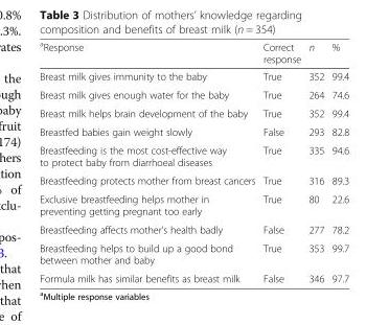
<table><thead><tr><td><sup>a</sup>Response</td><td>Correct response</td><td>n</td><td>%</td></tr></thead><tbody><tr><td>Breast milk gives immunity to the baby</td><td>True</td><td>352</td><td>99.4</td></tr><tr><td>Breast milk gives enough water for the baby</td><td>True</td><td>264</td><td>74.6</td></tr><tr><td>Breast milk helps brain development of the baby</td><td>True</td><td>352</td><td>99.4</td></tr><tr><td>Breastfed babies gain weight slowly</td><td>False</td><td>293</td><td>82.8</td></tr><tr><td>Breastfeeding is the most cost-effective way to protect baby from diarrhoeal diseases</td><td>True</td><td>335</td><td>94.6</td></tr><tr><td>Breastfeeding protects mother from breast cancers</td><td>True</td><td>316</td><td>89.3</td></tr><tr><td>Exclusive breastfeeding helps mother in preventing getting pregnant too early</td><td>True</td><td>80</td><td>22.6</td></tr><tr><td>Breastfeeding affects mother’s health badly</td><td>False</td><td>277</td><td>78.2</td></tr><tr><td>Breastfeeding helps to build up a good bond between mother and baby</td><td>True</td><td>353</td><td>99.7</td></tr><tr><td>Formula milk has similar benefits as breast milk</td><td>False</td><td>346</td><td>97.7</td></tr></tbody></table>